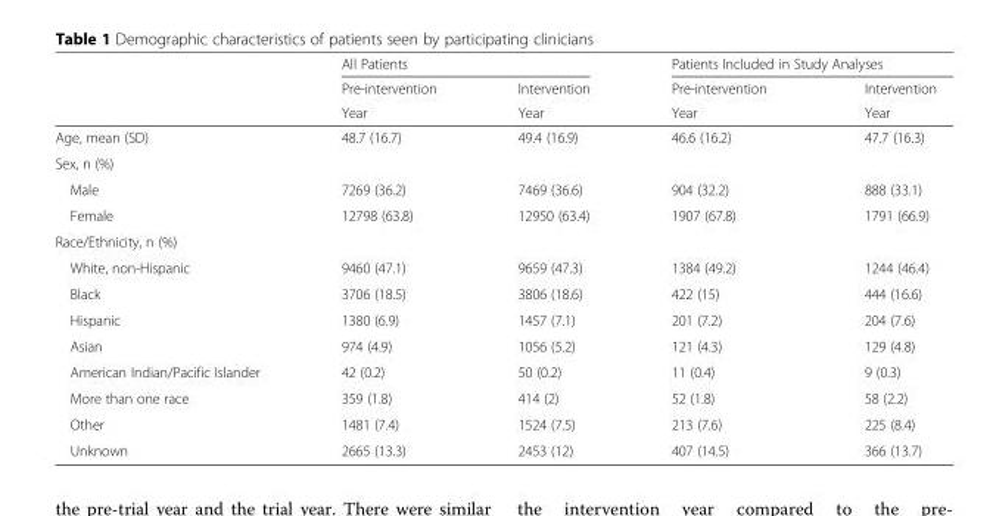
<table><thead><tr><td rowspan="3"></td><td colspan="2">All Patients</td><td colspan="2">Patients Included in Study Analyses</td></tr><tr><td rowspan="2">Pre-intervention Year</td><td rowspan="2">Intervention Year</td><td rowspan="2">Pre-intervention Year</td><td rowspan="2">Intervention Year</td></tr><tr></tr></thead><tbody><tr><td>Age, mean (SD)</td><td>48.7 (16.7)</td><td>49.4 (16.9)</td><td>46.6 (16.2)</td><td>47.7 (16.3)</td></tr><tr><td colspan="5">Sex, n (%)</td></tr><tr><td>Male</td><td>7269 (36.2)</td><td>7469 (36.6)</td><td>904 (32.2)</td><td>888 (33.1)</td></tr><tr><td>Female</td><td>12798 (63.8)</td><td>12950 (63.4)</td><td>1907 (67.8)</td><td>1791 (66.9)</td></tr><tr><td colspan="5">Race/Ethnicity, n (%)</td></tr><tr><td>White, non-Hispanic</td><td>9460 (47.1)</td><td>9659 (47.3)</td><td>1384 (49.2)</td><td>1244 (46.4)</td></tr><tr><td>Black</td><td>3706 (18.5)</td><td>3806 (18.6)</td><td>422 (15)</td><td>444 (16.6)</td></tr><tr><td>Hispanic</td><td>1380 (6.9)</td><td>1457 (7.1)</td><td>201 (7.2)</td><td>204 (7.6)</td></tr><tr><td>Asian</td><td>974 (4.9)</td><td>1056 (5.2)</td><td>121 (4.3)</td><td>129 (4.8)</td></tr><tr><td>American Indian/Pacific Islander</td><td>42 (0.2)</td><td>50 (0.2)</td><td>11 (0.4)</td><td>9 (0.3)</td></tr><tr><td>More than one race</td><td>359 (1.8)</td><td>414 (2)</td><td>52 (1.8)</td><td>58 (2.2)</td></tr><tr><td>Other</td><td>1481 (7.4)</td><td>1524 (7.5)</td><td>213 (7.6)</td><td>225 (8.4)</td></tr><tr><td>Unknown</td><td>2665 (13.3)</td><td>2453 (12)</td><td>407 (14.5)</td><td>366 (13.7)</td></tr></tbody></table>